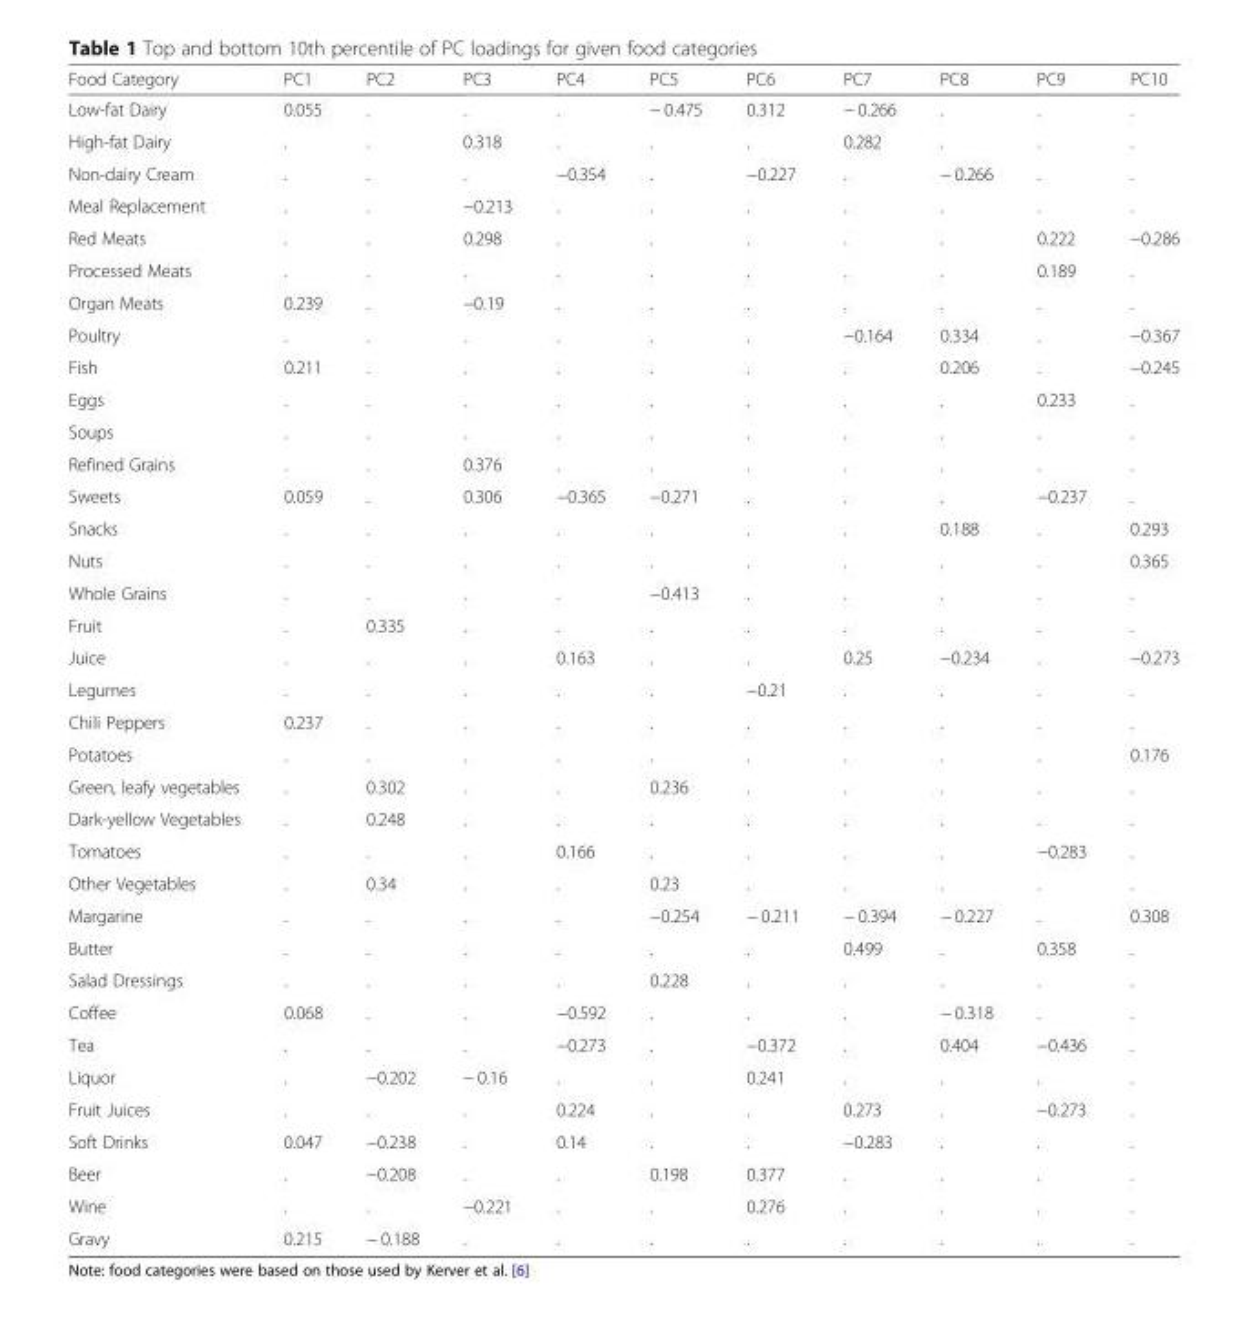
<table><thead><tr><td>Food Category</td><td>PC1</td><td>PC2</td><td>PC3</td><td>PC4</td><td>PC5</td><td>PC6</td><td>PC7</td><td>PC8</td><td>PC9</td><td>PC10</td></tr></thead><tbody><tr><td>Low-fat Dairy</td><td>0.055</td><td>.</td><td>.</td><td>.</td><td>− 0.475</td><td>0.312</td><td>− 0.266</td><td>.</td><td>.</td><td>.</td></tr><tr><td>High-fat Dairy</td><td>.</td><td>.</td><td>0.318</td><td>.</td><td>.</td><td>.</td><td>0.282</td><td>.</td><td>.</td><td>.</td></tr><tr><td>Non-dairy Cream</td><td>.</td><td>.</td><td>.</td><td>−0.354</td><td>.</td><td>−0.227</td><td>.</td><td>− 0.266</td><td>.</td><td>.</td></tr><tr><td>Meal Replacement</td><td>.</td><td>.</td><td>−0.213</td><td>.</td><td>.</td><td>.</td><td>.</td><td>.</td><td>.</td><td>.</td></tr><tr><td>Red Meats</td><td>.</td><td>.</td><td>0.298</td><td>.</td><td>.</td><td>.</td><td>.</td><td>.</td><td>0.222</td><td>−0.286</td></tr><tr><td>Processed Meats</td><td>.</td><td>.</td><td>.</td><td>.</td><td>.</td><td>.</td><td>.</td><td>.</td><td>0.189</td><td>.</td></tr><tr><td>Organ Meats</td><td>0.239</td><td>.</td><td>−0.19</td><td>.</td><td>.</td><td>.</td><td>.</td><td>.</td><td>.</td><td>.</td></tr><tr><td>Poultry</td><td>.</td><td>.</td><td>.</td><td>.</td><td>.</td><td>.</td><td>−0.164</td><td>0.334</td><td>.</td><td>−0.367</td></tr><tr><td>Fish</td><td>0.211</td><td>.</td><td>.</td><td>.</td><td>.</td><td>.</td><td>.</td><td>0.206</td><td>.</td><td>−0.245</td></tr><tr><td>Eggs</td><td>.</td><td>.</td><td>.</td><td>.</td><td>.</td><td>.</td><td>.</td><td>.</td><td>0.233</td><td>.</td></tr><tr><td>Soups</td><td>.</td><td>.</td><td>.</td><td>.</td><td>.</td><td>.</td><td>.</td><td>.</td><td>.</td><td>.</td></tr><tr><td>Refined Grains</td><td>.</td><td>.</td><td>0.376</td><td>.</td><td>.</td><td>.</td><td>.</td><td>.</td><td>.</td><td>.</td></tr><tr><td>Sweets</td><td>0.059</td><td>.</td><td>0.306</td><td>−0.365</td><td>−0.271</td><td>.</td><td>.</td><td>.</td><td>−0.237</td><td>.</td></tr><tr><td>Snacks</td><td>.</td><td>.</td><td>.</td><td>.</td><td>.</td><td>.</td><td>.</td><td>0.188</td><td>.</td><td>0.293</td></tr><tr><td>Nuts</td><td>.</td><td>.</td><td>.</td><td>.</td><td>.</td><td>.</td><td>.</td><td>.</td><td>.</td><td>0.365</td></tr><tr><td>Whole Grains</td><td>.</td><td>.</td><td>.</td><td>.</td><td>−0.413</td><td>.</td><td>.</td><td>.</td><td>.</td><td>.</td></tr><tr><td>Fruit</td><td>.</td><td>0.335</td><td>.</td><td>.</td><td>.</td><td>.</td><td>.</td><td>.</td><td>.</td><td>.</td></tr><tr><td>Juice</td><td>.</td><td>.</td><td>.</td><td>0.163</td><td>.</td><td>.</td><td>0.25</td><td>−0.234</td><td>.</td><td>−0.273</td></tr><tr><td>Legumes</td><td>.</td><td>.</td><td>.</td><td>.</td><td>.</td><td>−0.21</td><td>.</td><td>.</td><td>.</td><td>.</td></tr><tr><td>Chili Peppers</td><td>0.237</td><td>.</td><td>.</td><td>.</td><td>.</td><td>.</td><td>.</td><td>.</td><td>.</td><td>.</td></tr><tr><td>Potatoes</td><td>.</td><td>.</td><td>.</td><td>.</td><td>.</td><td>.</td><td>.</td><td>.</td><td>.</td><td>0.176</td></tr><tr><td>Green, leafy vegetables</td><td>.</td><td>0.302</td><td>.</td><td>.</td><td>0.236</td><td>.</td><td>.</td><td>.</td><td>.</td><td>.</td></tr><tr><td>Dark-yellow Vegetables</td><td>.</td><td>0.248</td><td>.</td><td>.</td><td>.</td><td>.</td><td>.</td><td>.</td><td>.</td><td>.</td></tr><tr><td>Tomatoes</td><td>.</td><td>.</td><td>.</td><td>0.166</td><td>.</td><td>.</td><td>.</td><td>.</td><td>−0.283</td><td>.</td></tr><tr><td>Other Vegetables</td><td>.</td><td>0.34</td><td>.</td><td>.</td><td>0.23</td><td>.</td><td>.</td><td>.</td><td>.</td><td>.</td></tr><tr><td>Margarine</td><td>.</td><td>.</td><td>.</td><td>.</td><td>−0.254</td><td>− 0.211</td><td>− 0.394</td><td>− 0.227</td><td>.</td><td>0.308</td></tr><tr><td>Butter</td><td>.</td><td>.</td><td>.</td><td>.</td><td>.</td><td>.</td><td>0.499</td><td>.</td><td>0.358</td><td>.</td></tr><tr><td>Salad Dressings</td><td>.</td><td>.</td><td>.</td><td>.</td><td>0.228</td><td>.</td><td>.</td><td>.</td><td>.</td><td>.</td></tr><tr><td>Coffee</td><td>0.068</td><td>.</td><td>.</td><td>−0.592</td><td>.</td><td>.</td><td>.</td><td>− 0.318</td><td>.</td><td>.</td></tr><tr><td>Tea</td><td>.</td><td>.</td><td>.</td><td>−0.273</td><td>.</td><td>−0.372</td><td>.</td><td>0.404</td><td>−0.436</td><td>.</td></tr><tr><td>Liquor</td><td>.</td><td>−0.202</td><td>− 0.16</td><td>.</td><td>.</td><td>0.241</td><td>.</td><td>.</td><td>.</td><td>.</td></tr><tr><td>Fruit Juices</td><td>.</td><td>.</td><td>.</td><td>0.224</td><td>.</td><td>.</td><td>0.273</td><td>.</td><td>−0.273</td><td>.</td></tr><tr><td>Soft Drinks</td><td>0.047</td><td>−0.238</td><td>.</td><td>0.14</td><td>.</td><td>.</td><td>−0.283</td><td>.</td><td>.</td><td>.</td></tr><tr><td>Beer</td><td>.</td><td>−0.208</td><td>.</td><td>.</td><td>0.198</td><td>0.377</td><td>.</td><td>.</td><td>.</td><td>.</td></tr><tr><td>Wine</td><td>.</td><td>.</td><td>−0.221</td><td>.</td><td>.</td><td>0.276</td><td>.</td><td>.</td><td>.</td><td>.</td></tr><tr><td>Gravy</td><td>0.215</td><td>− 0.188</td><td>.</td><td>.</td><td>.</td><td>.</td><td>.</td><td>.</td><td>.</td><td>.</td></tr></tbody></table>